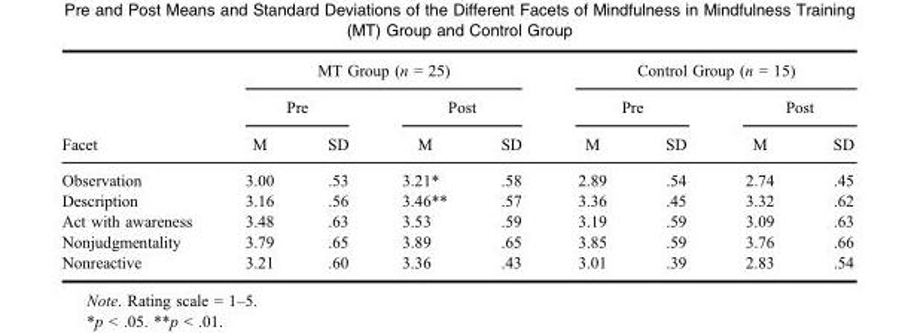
<table><thead><tr><td rowspan="3">Facet</td><td colspan="4">MT Group (n = 25)</td><td colspan="4">Control Group (n = 15)</td></tr><tr><td colspan="2">Pre</td><td colspan="2">Post</td><td colspan="2">Pre</td><td colspan="2">Post</td></tr><tr><td>M</td><td>SD</td><td>M</td><td>SD</td><td>M</td><td>SD</td><td>M</td><td>SD</td></tr></thead><tbody><tr><td>Observation</td><td>3.00</td><td>.53</td><td>3.21*</td><td>.58</td><td>2.89</td><td>.54</td><td>2.74</td><td>.45</td></tr><tr><td>Description</td><td>3.16</td><td>.56</td><td>3.46**</td><td>.57</td><td>3.36</td><td>.45</td><td>3.32</td><td>.62</td></tr><tr><td>Act with awareness</td><td>3.48</td><td>.63</td><td>3.53</td><td>.59</td><td>3.19</td><td>.59</td><td>3.09</td><td>.63</td></tr><tr><td>Nonjudgmentality</td><td>3.79</td><td>.65</td><td>3.89</td><td>.65</td><td>3.85</td><td>.59</td><td>3.76</td><td>.66</td></tr><tr><td>Nonreactive</td><td>3.21</td><td>.60</td><td>3.36</td><td>.43</td><td>3.01</td><td>.39</td><td>2.83</td><td>.54</td></tr></tbody></table>